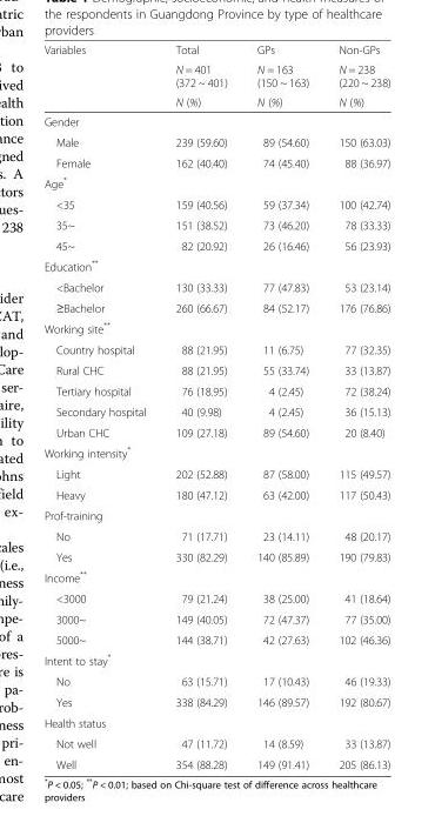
<table><thead><tr><td rowspan="3">Variables</td><td rowspan="3">Total N = 401 (372 ~ 401) N (%)</td><td rowspan="3">GPs N = 163 (150 ~ 163) N (%)</td><td rowspan="3">Non-GPs N = 238 (220 ~ 238) N (%)</td></tr><tr></tr><tr></tr></thead><tbody><tr><td colspan="4">Gender</td></tr><tr><td>Male</td><td>239 (59.60)</td><td>89 (54.60)</td><td>150 (63.03)</td></tr><tr><td>Female</td><td>162 (40.40)</td><td>74 (45.40)</td><td>88 (36.97)</td></tr><tr><td colspan="4">Age*</td></tr><tr><td>&lt;35</td><td>159 (40.56)</td><td>59 (37.34)</td><td>100 (42.74)</td></tr><tr><td>35~</td><td>151 (38.52)</td><td>73 (46.20)</td><td>78 (33.33)</td></tr><tr><td>45~</td><td>82 (20.92)</td><td>26 (16.46)</td><td>56 (23.93)</td></tr><tr><td colspan="4">Education**</td></tr><tr><td>&lt;Bachelor</td><td>130 (33.33)</td><td>77 (47.83)</td><td>53 (23.14)</td></tr><tr><td>≥Bachelor</td><td>260 (66.67)</td><td>84 (52.17)</td><td>176 (76.86)</td></tr><tr><td colspan="4">Working site**</td></tr><tr><td>Country hospital</td><td>88 (21.95)</td><td>11 (6.75)</td><td>77 (32.35)</td></tr><tr><td>Rural CHC</td><td>88 (21.95)</td><td>55 (33.74)</td><td>33 (13.87)</td></tr><tr><td>Tertiary hospital</td><td>76 (18.95)</td><td>4 (2.45)</td><td>72 (38.24)</td></tr><tr><td>Secondary hospital</td><td>40 (9.98)</td><td>4 (2.45)</td><td>36 (15.13)</td></tr><tr><td>Urban CHC</td><td>109 (27.18)</td><td>89 (54.60)</td><td>20 (8.40)</td></tr><tr><td colspan="4">Working intensity*</td></tr><tr><td>Light</td><td>202 (52.88)</td><td>87 (58.00)</td><td>115 (49.57)</td></tr><tr><td>Heavy</td><td>180 (47.12)</td><td>63 (42.00)</td><td>117 (50.43)</td></tr><tr><td colspan="4">Prof-training</td></tr><tr><td>No</td><td>71 (17.71)</td><td>23 (14.11)</td><td>48 (20.17)</td></tr><tr><td>Yes</td><td>330 (82.29)</td><td>140 (85.89)</td><td>190 (79.83)</td></tr><tr><td colspan="4">Income**</td></tr><tr><td>&lt;3000</td><td>79 (21.24)</td><td>38 (25.00)</td><td>41 (18.64)</td></tr><tr><td>3000~</td><td>149 (40.05)</td><td>72 (47.37)</td><td>77 (35.00)</td></tr><tr><td>5000~</td><td>144 (38.71)</td><td>42 (27.63)</td><td>102 (46.36)</td></tr><tr><td colspan="4">Intent to stay*</td></tr><tr><td>No</td><td>63 (15.71)</td><td>17 (10.43)</td><td>46 (19.33)</td></tr><tr><td>Yes</td><td>338 (84.29)</td><td>146 (89.57)</td><td>192 (80.67)</td></tr><tr><td colspan="4">Health status</td></tr><tr><td>Not well</td><td>47 (11.72)</td><td>14 (8.59)</td><td>33 (13.87)</td></tr><tr><td>Well</td><td>354 (88.28)</td><td>149 (91.41)</td><td>205 (86.13)</td></tr></tbody></table>